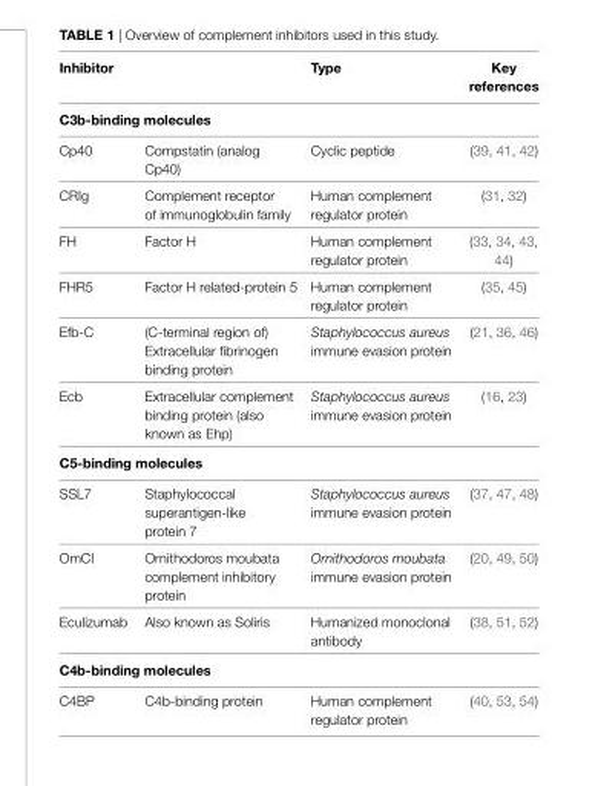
<table><thead><tr><td colspan="2">inhibitor</td><td>Type</td><td>Key references</td></tr><tr><td colspan="4">c3b-binding molecules</td></tr><tr><td>Cp40</td><td>Compstatin (analog Cp40)</td><td>Cyclic peptide</td><td>(39, 41, 42)</td></tr></thead><tbody><tr><td>CRIg</td><td>Complement receptor of immunoglobulin family</td><td>Human complement regulator protein</td><td>(31, 32)</td></tr><tr><td>FH</td><td>Factor H</td><td>Human complement regulator protein</td><td>(33, 34, 43, 44)</td></tr><tr><td>FHR5</td><td>Factor H related-protein 5</td><td>Human complement regulator protein</td><td>(35, 45)</td></tr><tr><td>Efb-C</td><td>(C-terminal region of) Extracellular fibrinogen binding protein</td><td>Staphylococcus aureus immune evasion protein</td><td>(21, 36, 46)</td></tr><tr><td>Ecb</td><td>Extracellular complement binding protein (also known as Ehp)</td><td>Staphylococcus aureus immune evasion protein</td><td>(16, 23)</td></tr><tr><td colspan="4">c5-binding molecules</td></tr><tr><td>SSL7</td><td>Staphylococcal superantigen-like protein 7</td><td>Staphylococcus aureus immune evasion protein</td><td>(37, 47, 48)</td></tr><tr><td>OmCI</td><td>Ornithodoros moubata complement inhibitory protein</td><td>Ornithodoros moubata immune evasion protein</td><td>(20, 49, 50)</td></tr><tr><td>Eculizumab</td><td>Also known as Soliris</td><td>Humanized monoclonal antibody</td><td>(38, 51, 52)</td></tr><tr><td colspan="4">c4b-binding molecules</td></tr><tr><td>C4BP</td><td>C4b-binding protein</td><td>Human complement regulator protein</td><td>(40, 53, 54)</td></tr></tbody></table>